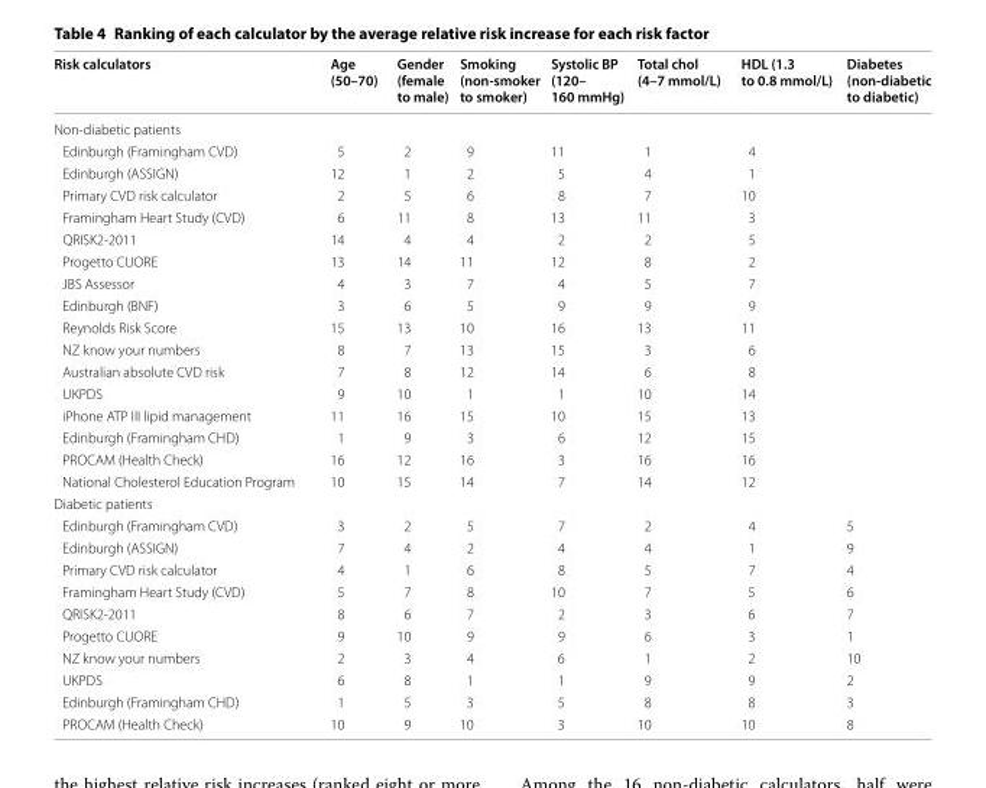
<table><thead><tr><td>Risk calculators</td><td>Age (50–70)</td><td>Gender (female to male)</td><td>Smoking (non-smoker to smoker)</td><td>Systolic BP (120– 160 mmHg)</td><td>Total chol (4–7 mmol/L)</td><td>HDL (1.3 to 0.8 mmol/L)</td><td>Diabetes (non-diabetic to diabetic)</td></tr></thead><tbody><tr><td colspan="8">Non-diabetic patients</td></tr><tr><td>Edinburgh (Framingham CVD)</td><td>5</td><td>2</td><td>9</td><td>11</td><td>1</td><td>4</td><td rowspan="16"></td></tr><tr><td>Edinburgh (ASSIGN)</td><td>12</td><td>1</td><td>2</td><td>5</td><td>4</td><td>1</td></tr><tr><td>Primary CVD risk calculator</td><td>2</td><td>5</td><td>6</td><td>8</td><td>7</td><td>10</td></tr><tr><td>Framingham Heart Study (CVD)</td><td>6</td><td>11</td><td>8</td><td>13</td><td>11</td><td>3</td></tr><tr><td>QRISK2-2011</td><td>14</td><td>4</td><td>4</td><td>2</td><td>2</td><td>5</td></tr><tr><td>Progetto CUORE</td><td>13</td><td>14</td><td>11</td><td>12</td><td>8</td><td>2</td></tr><tr><td>JBS Assessor</td><td>4</td><td>3</td><td>7</td><td>4</td><td>5</td><td>7</td></tr><tr><td>Edinburgh (BNF)</td><td>3</td><td>6</td><td>5</td><td>9</td><td>9</td><td>9</td></tr><tr><td>Reynolds Risk Score</td><td>15</td><td>13</td><td>10</td><td>16</td><td>13</td><td>11</td></tr><tr><td>NZ know your numbers</td><td>8</td><td>7</td><td>13</td><td>15</td><td>3</td><td>6</td></tr><tr><td>Australian absolute CVD risk</td><td>7</td><td>8</td><td>12</td><td>14</td><td>6</td><td>8</td></tr><tr><td>UKPDS</td><td>9</td><td>10</td><td>1</td><td>1</td><td>10</td><td>14</td></tr><tr><td>iPhone ATP III lipid management</td><td>11</td><td>16</td><td>15</td><td>10</td><td>15</td><td>13</td></tr><tr><td>Edinburgh (Framingham CHD)</td><td>1</td><td>9</td><td>3</td><td>6</td><td>12</td><td>15</td></tr><tr><td>PROCAM (Health Check)</td><td>16</td><td>12</td><td>16</td><td>3</td><td>16</td><td>16</td></tr><tr><td>National Cholesterol Education Program</td><td>10</td><td>15</td><td>14</td><td>7</td><td>14</td><td>12</td></tr><tr><td colspan="8">Diabetic patients</td></tr><tr><td>Edinburgh (Framingham CVD)</td><td>3</td><td>2</td><td>5</td><td>7</td><td>2</td><td>4</td><td>5</td></tr><tr><td>Edinburgh (ASSIGN)</td><td>7</td><td>4</td><td>2</td><td>4</td><td>4</td><td>1</td><td>9</td></tr><tr><td>Primary CVD risk calculator</td><td>4</td><td>1</td><td>6</td><td>8</td><td>5</td><td>7</td><td>4</td></tr><tr><td>Framingham Heart Study (CVD)</td><td>5</td><td>7</td><td>8</td><td>10</td><td>7</td><td>5</td><td>6</td></tr><tr><td>QRISK2-2011</td><td>8</td><td>6</td><td>7</td><td>2</td><td>3</td><td>6</td><td>7</td></tr><tr><td>Progetto CUORE</td><td>9</td><td>10</td><td>9</td><td>9</td><td>6</td><td>3</td><td>1</td></tr><tr><td>NZ know your numbers</td><td>2</td><td>3</td><td>4</td><td>6</td><td>1</td><td>2</td><td>10</td></tr><tr><td>UKPDS</td><td>6</td><td>8</td><td>1</td><td>1</td><td>9</td><td>9</td><td>2</td></tr><tr><td>Edinburgh (Framingham CHD)</td><td>1</td><td>5</td><td>3</td><td>5</td><td>8</td><td>8</td><td>3</td></tr><tr><td>PROCAM (Health Check)</td><td>10</td><td>9</td><td>10</td><td>3</td><td>10</td><td>10</td><td>8</td></tr></tbody></table>